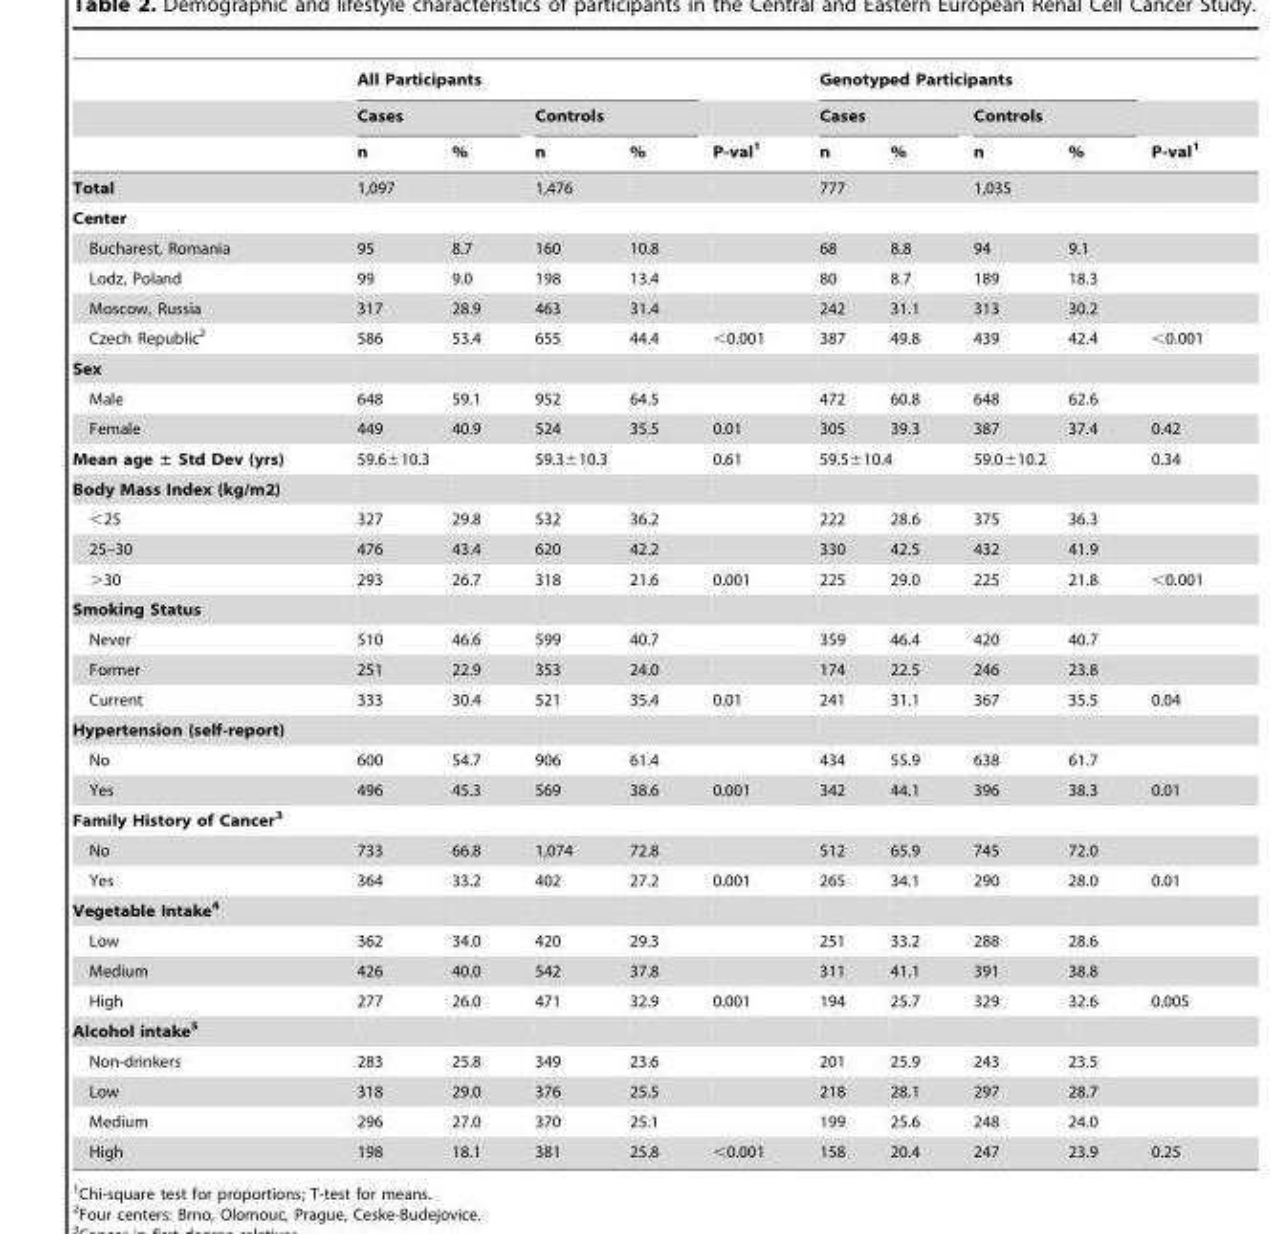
<table><thead><tr><td rowspan="3"></td><td colspan="4">All Participants</td><td rowspan="3">P-val<sup>1</sup></td><td colspan="4">Genotyped Participants</td><td rowspan="3">P-val<sup>1</sup></td></tr><tr><td colspan="2">Cases</td><td colspan="2">Controls</td><td colspan="2">Cases</td><td colspan="2">Controls</td></tr><tr><td>n</td><td>%</td><td>n</td><td>%</td><td>n</td><td>%</td><td>n</td><td>%</td></tr></thead><tbody><tr><td>Total</td><td>1,097</td><td></td><td>1,476</td><td></td><td></td><td>777</td><td></td><td>1,035</td><td></td><td></td></tr><tr><td colspan="11">Center</td></tr><tr><td>Bucharest, Romania</td><td>95</td><td>8.7</td><td>160</td><td>10.8</td><td></td><td>68</td><td>8.8</td><td>94</td><td>9.1</td><td></td></tr><tr><td>Lodz, Poland</td><td>99</td><td>9.0</td><td>198</td><td>13.4</td><td></td><td>80</td><td>8.7</td><td>189</td><td>18.3</td><td></td></tr><tr><td>Moscow, Russia</td><td>317</td><td>28.9</td><td>463</td><td>31.4</td><td></td><td>242</td><td>31.1</td><td>313</td><td>30.2</td><td></td></tr><tr><td>Czech Republic<sup>2</sup></td><td>586</td><td>53.4</td><td>655</td><td>44.4</td><td>&lt;0.001</td><td>387</td><td>49.8</td><td>439</td><td>42.4</td><td>&lt;0.001</td></tr><tr><td colspan="11">Sex</td></tr><tr><td>Male</td><td>648</td><td>59.1</td><td>952</td><td>64.5</td><td></td><td>472</td><td>60.8</td><td>648</td><td>62.6</td><td></td></tr><tr><td>Female</td><td>449</td><td>40.9</td><td>524</td><td>35.5</td><td>0.01</td><td>305</td><td>39.3</td><td>387</td><td>37.4</td><td>0.42</td></tr><tr><td>Mean age ± Std Dev (yrs)</td><td colspan="2">59.6±10.3</td><td colspan="2">59.3±10.3</td><td>0.61</td><td colspan="2">59.5±10.4</td><td colspan="2">59.0±10.2</td><td>0.34</td></tr><tr><td colspan="11">Body Mass Index (kg/m2)</td></tr><tr><td>&lt;25</td><td>327</td><td>29.8</td><td>532</td><td>36.2</td><td></td><td>222</td><td>28.6</td><td>375</td><td>36.3</td><td></td></tr><tr><td>25–30</td><td>476</td><td>43.4</td><td>620</td><td>42.2</td><td></td><td>330</td><td>42.5</td><td>432</td><td>41.9</td><td></td></tr><tr><td>&gt;30</td><td>293</td><td>26.7</td><td>318</td><td>21.6</td><td>0.001</td><td>225</td><td>29.0</td><td>225</td><td>21.8</td><td>&lt;0.001</td></tr><tr><td colspan="11">Smoking Status</td></tr><tr><td>Never</td><td>510</td><td>46.6</td><td>599</td><td>40.7</td><td></td><td>359</td><td>46.4</td><td>420</td><td>40.7</td><td></td></tr><tr><td>Former</td><td>251</td><td>22.9</td><td>353</td><td>24.0</td><td></td><td>174</td><td>22.5</td><td>246</td><td>23.8</td><td></td></tr><tr><td>Current</td><td>333</td><td>30.4</td><td>521</td><td>35.4</td><td>0.01</td><td>241</td><td>31.1</td><td>367</td><td>35.5</td><td>0.04</td></tr><tr><td colspan="11">Hypertension (self-report)</td></tr><tr><td>No</td><td>600</td><td>54.7</td><td>906</td><td>61.4</td><td></td><td>434</td><td>55.9</td><td>638</td><td>61.7</td><td></td></tr><tr><td>Yes</td><td>496</td><td>45.3</td><td>569</td><td>38.6</td><td>0.001</td><td>342</td><td>44.1</td><td>396</td><td>38.3</td><td>0.01</td></tr><tr><td colspan="11">Family History of Cancer3</td></tr><tr><td>No</td><td>733</td><td>66.8</td><td>1,074</td><td>72.8</td><td></td><td>512</td><td>65.9</td><td>745</td><td>72.0</td><td></td></tr><tr><td>Yes</td><td>364</td><td>33.2</td><td>402</td><td>27.2</td><td>0.001</td><td>265</td><td>34.1</td><td>290</td><td>28.0</td><td>0.01</td></tr><tr><td colspan="11">Vegetable Intake4</td></tr><tr><td>Low</td><td>362</td><td>34.0</td><td>420</td><td>29.3</td><td></td><td>251</td><td>33.2</td><td>288</td><td>28.6</td><td></td></tr><tr><td>Medium</td><td>426</td><td>40.0</td><td>542</td><td>37.8</td><td></td><td>311</td><td>41.1</td><td>391</td><td>38.8</td><td></td></tr><tr><td>High</td><td>277</td><td>26.0</td><td>471</td><td>32.9</td><td>0.001</td><td>194</td><td>25.7</td><td>329</td><td>32.6</td><td>0.005</td></tr><tr><td colspan="11">Alcohol intake5</td></tr><tr><td>Non-drinkers</td><td>283</td><td>25.8</td><td>349</td><td>23.6</td><td></td><td>201</td><td>25.9</td><td>243</td><td>23.5</td><td></td></tr><tr><td>Low</td><td>318</td><td>29.0</td><td>376</td><td>25.5</td><td></td><td>218</td><td>28.1</td><td>297</td><td>28.7</td><td></td></tr><tr><td>Medium</td><td>296</td><td>27.0</td><td>370</td><td>25.1</td><td></td><td>199</td><td>25.6</td><td>248</td><td>24.0</td><td></td></tr><tr><td>High</td><td>198</td><td>18.1</td><td>381</td><td>25.8</td><td>&lt;0.001</td><td>158</td><td>20.4</td><td>247</td><td>23.9</td><td>0.25</td></tr></tbody></table>